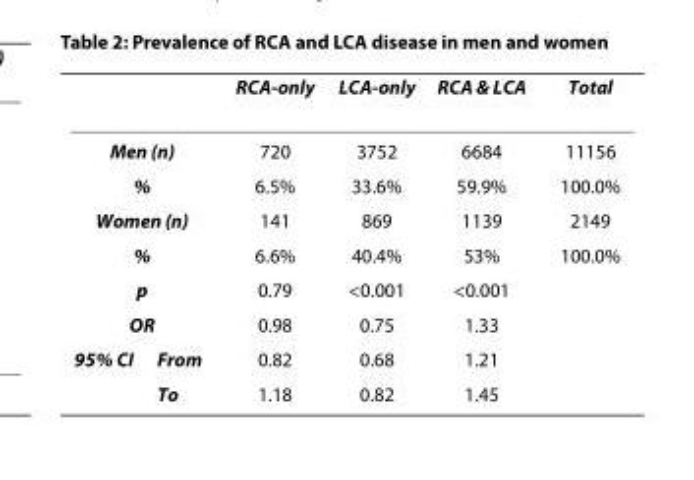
<table><thead><tr><td></td><td></td><td>RCA-only</td><td>LCA-only</td><td>RCA &amp; LCA</td><td>Total</td></tr></thead><tbody><tr><td colspan="2">Men (n)</td><td>720</td><td>3752</td><td>6684</td><td>11156</td></tr><tr><td colspan="2">%</td><td>6.5%</td><td>33.6%</td><td>59.9%</td><td>100.0%</td></tr><tr><td colspan="2">Women (n)</td><td>141</td><td>869</td><td>1139</td><td>2149</td></tr><tr><td colspan="2">%</td><td>6.6%</td><td>40.4%</td><td>53%</td><td>100.0%</td></tr><tr><td colspan="2">p</td><td>0.79</td><td>&lt;0.001</td><td>&lt;0.001</td><td></td></tr><tr><td colspan="2">OR</td><td>0.98</td><td>0.75</td><td>1.33</td><td></td></tr><tr><td rowspan="2">95% CI</td><td>From</td><td>0.82</td><td>0.68</td><td>1.21</td><td></td></tr><tr><td>To</td><td>1.18</td><td>0.82</td><td>1.45</td><td></td></tr></tbody></table>